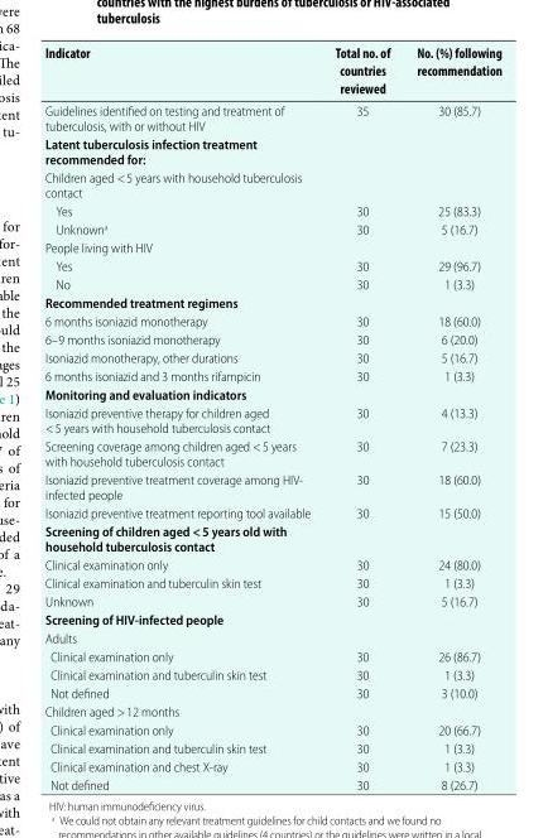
<table><thead><tr><td>Indicator</td><td>Total no. of countries reviewed</td><td>No. (%) following recommendation</td></tr></thead><tbody><tr><td>Guidelines identified on testing and treatment of tuberculosis, with or without HIV</td><td>35</td><td>30 (85.7)</td></tr><tr><td colspan="3">Latent tuberculosis infection treatment recommended for:</td></tr><tr><td colspan="3">Children aged &lt; 5 years with household tuberculosis contact</td></tr><tr><td>Yes</td><td>30</td><td>25 (83.3)</td></tr><tr><td>Unknown<sup>a</sup></td><td>30</td><td>5 (16.7)</td></tr><tr><td colspan="3">People living with HIV</td></tr><tr><td>Yes</td><td>30</td><td>29 (96.7)</td></tr><tr><td>No</td><td>30</td><td>1 (3.3)</td></tr><tr><td colspan="3">Recommended treatment regimens</td></tr><tr><td>6 months isoniazid monotherapy</td><td>30</td><td>18 (60.0)</td></tr><tr><td>6–9 months isoniazid monotherapy</td><td>30</td><td>6 (20.0)</td></tr><tr><td>Isoniazid monotherapy, other durations</td><td>30</td><td>5 (16.7)</td></tr><tr><td>6 months isoniazid and 3 months rifampicin</td><td>30</td><td>1 (3.3)</td></tr><tr><td colspan="3">Monitoring and evaluation indicators</td></tr><tr><td>Isoniazid preventive therapy for children aged &lt; 5 years with household tuberculosis contact</td><td>30</td><td>4 (13.3)</td></tr><tr><td>Screening coverage among children aged &lt; 5 years with household tuberculosis contact</td><td>30</td><td>7 (23.3)</td></tr><tr><td>Isoniazid preventive treatment coverage among HIV- infected people</td><td>30</td><td>18 (60.0)</td></tr><tr><td>Isoniazid preventive treatment reporting tool available</td><td>30</td><td>15 (50.0)</td></tr><tr><td colspan="3">Screening of children aged &lt; 5 years old with household tuberculosis contact</td></tr><tr><td>Clinical examination only</td><td>30</td><td>24 (80.0)</td></tr><tr><td>Clinical examination and tuberculin skin test</td><td>30</td><td>1 (3.3)</td></tr><tr><td>Unknown</td><td>30</td><td>5 (16.7)</td></tr><tr><td colspan="3">Screening of HIV-infected people</td></tr><tr><td colspan="3">Adults</td></tr><tr><td>Clinical examination only</td><td>30</td><td>26 (86.7)</td></tr><tr><td>Clinical examination and tuberculin skin test</td><td>30</td><td>1 (3.3)</td></tr><tr><td>Not defined</td><td>30</td><td>3 (10.0)</td></tr><tr><td colspan="3">Children aged &gt; 12 months</td></tr><tr><td>Clinical examination only</td><td>30</td><td>20 (66.7)</td></tr><tr><td>Clinical examination and tuberculin skin test</td><td>30</td><td>1 (3.3)</td></tr><tr><td>Clinical examination and chest X-ray</td><td>30</td><td>1 (3.3)</td></tr><tr><td>Not defined</td><td>30</td><td>8 (26.7)</td></tr></tbody></table>